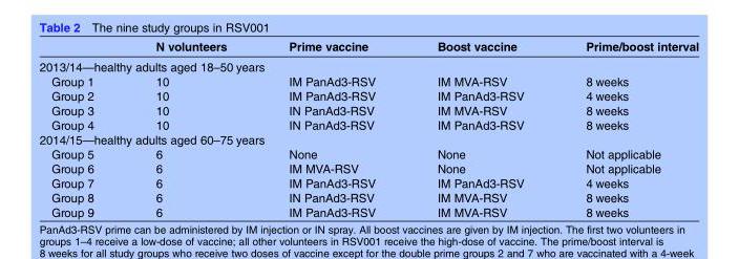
<table><thead><tr><td></td><td>N volunteers</td><td>Prime vaccine</td><td>Boost vaccine</td><td>Prime/boost interval</td></tr></thead><tbody><tr><td colspan="5">2013/14—healthy adults aged 18–50 years</td></tr><tr><td>Group 1</td><td>10</td><td>IM PanAd3-RSV</td><td>IM MVA-RSV</td><td>8 weeks</td></tr><tr><td>Group 2</td><td>10</td><td>IM PanAd3-RSV</td><td>IM PanAd3-RSV</td><td>4 weeks</td></tr><tr><td>Group 3</td><td>10</td><td>IN PanAd3-RSV</td><td>IM MVA-RSV</td><td>8 weeks</td></tr><tr><td>Group 4</td><td>10</td><td>IN PanAd3-RSV</td><td>IM PanAd3-RSV</td><td>8 weeks</td></tr><tr><td colspan="5">2014/15—healthy adults aged 60–75 years</td></tr><tr><td>Group 5</td><td>6</td><td>None</td><td>None</td><td>Not applicable</td></tr><tr><td>Group 6</td><td>6</td><td>IM MVA-RSV</td><td>None</td><td>Not applicable</td></tr><tr><td>Group 7</td><td>6</td><td>IM PanAd3-RSV</td><td>IM PanAd3-RSV</td><td>4 weeks</td></tr><tr><td>Group 8</td><td>6</td><td>IN PanAd3-RSV</td><td>IM MVA-RSV</td><td>8 weeks</td></tr><tr><td>Group 9</td><td>6</td><td>IM PanAd3-RSV</td><td>IM MVA-RSV</td><td>8 weeks</td></tr></tbody></table>